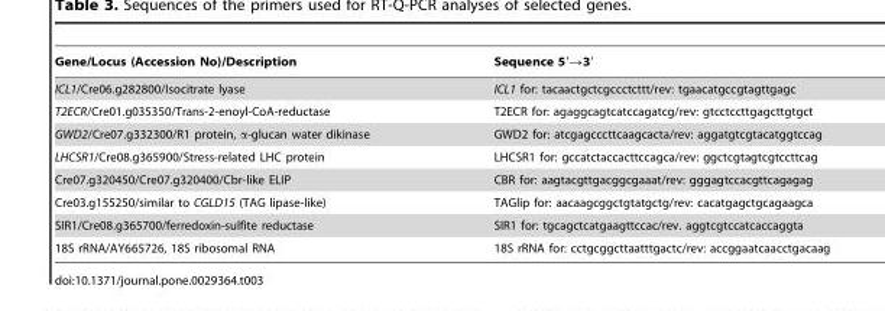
<table><thead><tr><td>Gene/Locus (Accession No)/Description</td><td>Sequence 5′→3′</td></tr></thead><tbody><tr><td>ICL1/Cre06.g282800/Isocitrate lyase</td><td>ICL1 for: tacaactgctcgccctcttt/rev: tgaacatgccgtagttgagc</td></tr><tr><td>T2ECR/Cre01.g035350/Trans-2-enoyl-CoA-reductase</td><td>T2ECR for: agaggcagtcatccagatcg/rev: gtcctccttgagcttgtgct</td></tr><tr><td>GWD2/Cre07.g332300/R1 protein, α-glucan water dikinase</td><td>GWD2 for: atcgagcccttcaagcacta/rev: aggatgtcgtacatggtccag</td></tr><tr><td>LHCSR1/Cre08.g365900/Stress-related LHC protein</td><td>LHCSR1 for: gccatctaccacttccagca/rev: ggctcgtagtcgtccttcag</td></tr><tr><td>Cre07.g320450/Cre07.g320400/Cbr-like ELIP</td><td>CBR for: aagtacgttgacggcgaaat/rev: gggagtccacgttcagagag</td></tr><tr><td>Cre03.g155250/similar to CGLD15 (TAG lipase-like)</td><td>TAGlip for: aacaagcggctgtatgctg/rev: cacatgagctgcagaagca</td></tr><tr><td>SIR1/Cre08.g365700/ferredoxin-sulfite reductase</td><td>SIR1 for: tgcagctcatgaagttccac/rev. aggtcgtccatcaccaggta</td></tr><tr><td>18S rRNA/AY665726, 18S ribosomal RNA</td><td>18S rRNA for: cctgcggcttaatttgactc/rev: accggaatcaacctgacaag</td></tr></tbody></table>